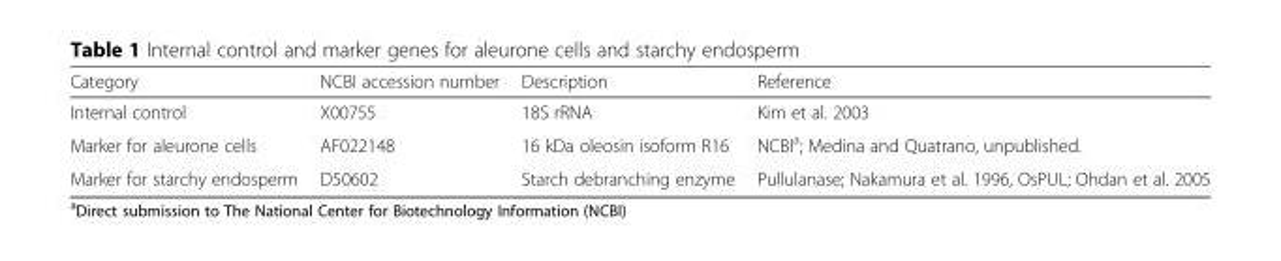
<table><thead><tr><td>Category</td><td>NCBI accession number</td><td>Description</td><td>Reference</td></tr></thead><tbody><tr><td>Internal control</td><td>X00755</td><td>18S rRNA</td><td>Kim et al. 2003</td></tr><tr><td>Marker for aleurone cells</td><td>AF022148</td><td>16 kDa oleosin isoform R16</td><td>NCBI<sup>a</sup>; Medina and Quatrano, unpublished.</td></tr><tr><td>Marker for starchy endosperm</td><td>D50602</td><td>Starch debranching enzyme</td><td>Pullulanase; Nakamura et al. 1996, OsPUL; Ohdan et al. 2005</td></tr></tbody></table>